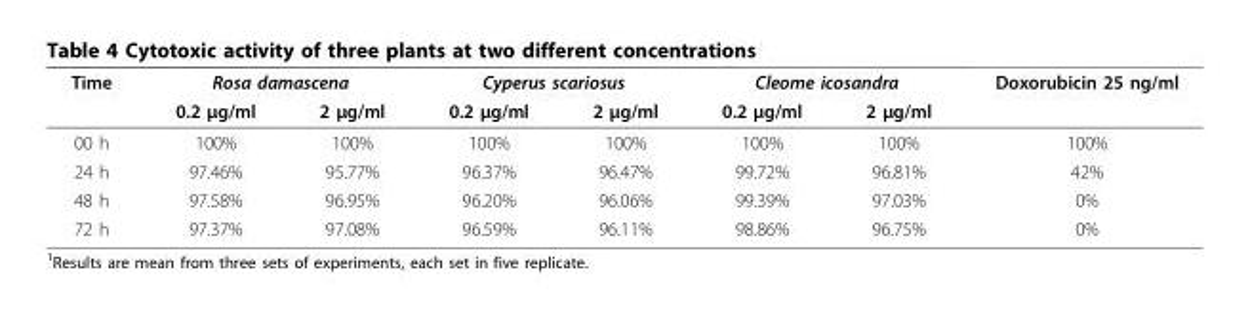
<table><thead><tr><td rowspan="2">Time</td><td colspan="2">Rosa damascena</td><td colspan="2">Cyperus scariosus</td><td colspan="2">Cleome icosandra</td><td rowspan="2">Doxorubicin 25 ng/ml</td></tr><tr><td>0.2 μg/ml</td><td>2 μg/ml</td><td>0.2 μg/ml</td><td>2 μg/ml</td><td>0.2 μg/ml</td><td>2 μg/ml</td></tr></thead><tbody><tr><td>00 h</td><td>100%</td><td>100%</td><td>100%</td><td>100%</td><td>100%</td><td>100%</td><td>100%</td></tr><tr><td>24 h</td><td>97.46%</td><td>95.77%</td><td>96.37%</td><td>96.47%</td><td>99.72%</td><td>96.81%</td><td>42%</td></tr><tr><td>48 h</td><td>97.58%</td><td>96.95%</td><td>96.20%</td><td>96.06%</td><td>99.39%</td><td>97.03%</td><td>0%</td></tr><tr><td>72 h</td><td>97.37%</td><td>97.08%</td><td>96.59%</td><td>96.11%</td><td>98.86%</td><td>96.75%</td><td>0%</td></tr></tbody></table>